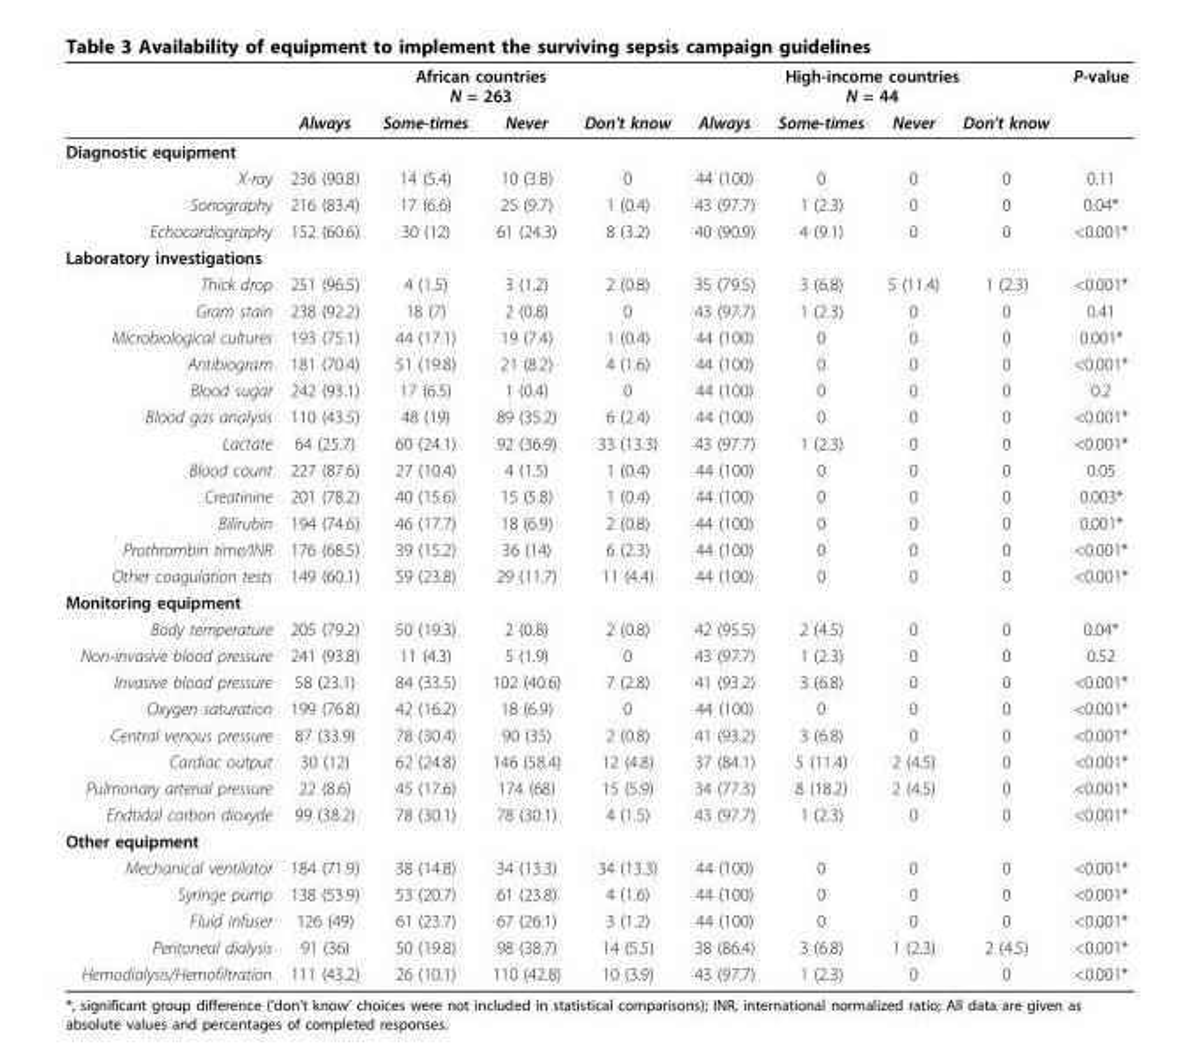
<table><thead><tr><td rowspan="2"></td><td colspan="4">African countries N = 263</td><td colspan="4">High-income countries N = 44</td><td rowspan="2">P-value</td></tr><tr><td>Always</td><td>Some-times</td><td>Never</td><td>Don’t know</td><td>Always</td><td>Some-times</td><td>Never</td><td>Don’t know</td></tr></thead><tbody><tr><td colspan="10">Diagnostic equipment</td></tr><tr><td>X-ray</td><td>236 (90.8)</td><td>14 (5.4)</td><td>10 (3.8)</td><td>0</td><td>44 (100)</td><td>0</td><td>0</td><td>0</td><td>0.11</td></tr><tr><td>Sonography</td><td>216 (83.4)</td><td>17 (6.6)</td><td>25 (9.7)</td><td>1 (0.4)</td><td>43 (97.7)</td><td>1 (2.3)</td><td>0</td><td>0</td><td>0.04*</td></tr><tr><td>Echocardiography</td><td>152 (60.6)</td><td>30 (12)</td><td>61 (24.3)</td><td>8 (3.2)</td><td>40 (90.9)</td><td>4 (9.1)</td><td>0</td><td>0</td><td>&lt;0.001*</td></tr><tr><td colspan="10">Laboratory investigations</td></tr><tr><td>Thick drop</td><td>251 (96.5)</td><td>4 (1.5)</td><td>3 (1.2)</td><td>2 (0.8)</td><td>35 (79.5)</td><td>3 (6.8)</td><td>5 (11.4)</td><td>1 (2.3)</td><td>&lt;0.001*</td></tr><tr><td>Gram stain</td><td>238 (92.2)</td><td>18 (7)</td><td>2 (0.8)</td><td>0</td><td>43 (97.7)</td><td>1 (2.3)</td><td>0</td><td>0</td><td>0.41</td></tr><tr><td>Microbiological cultures</td><td>193 (75.1)</td><td>44 (17.1)</td><td>19 (7.4)</td><td>1 (0.4)</td><td>44 (100)</td><td>0</td><td>0</td><td>0</td><td>0.001*</td></tr><tr><td>Antibiogram</td><td>181 (70.4)</td><td>51 (19.8)</td><td>21 (8.2)</td><td>4 (1.6)</td><td>44 (100)</td><td>0</td><td>0</td><td>0</td><td>&lt;0.001*</td></tr><tr><td>Blood sugar</td><td>242 (93.1)</td><td>17 (6.5)</td><td>1 (0.4)</td><td>0</td><td>44 (100)</td><td>0</td><td>0</td><td>0</td><td>0.2</td></tr><tr><td>Blood gas analysis</td><td>110 (43.5)</td><td>48 (19)</td><td>89 (35.2)</td><td>6 (2.4)</td><td>44 (100)</td><td>0</td><td>0</td><td>0</td><td>&lt;0.001*</td></tr><tr><td>Lactate</td><td>64 (25.7)</td><td>60 (24.1)</td><td>92 (36.9)</td><td>33 (13.3)</td><td>43 (97.7)</td><td>1 (2.3)</td><td>0</td><td>0</td><td>&lt;0.001*</td></tr><tr><td>Blood count</td><td>227 (87.6)</td><td>27 (10.4)</td><td>4 (1.5)</td><td>1 (0.4)</td><td>44 (100)</td><td>0</td><td>0</td><td>0</td><td>0.05</td></tr><tr><td>Creatinine</td><td>201 (78.2)</td><td>40 (15.6)</td><td>15 (5.8)</td><td>1 (0.4)</td><td>44 (100)</td><td>0</td><td>0</td><td>0</td><td>0.003*</td></tr><tr><td>Bilirubin</td><td>194 (74.6)</td><td>46 (17.7)</td><td>18 (6.9)</td><td>2 (0.8)</td><td>44 (100)</td><td>0</td><td>0</td><td>0</td><td>0.001*</td></tr><tr><td>Prothrombin time/INR</td><td>176 (68.5)</td><td>39 (15.2)</td><td>36 (14)</td><td>6 (2.3)</td><td>44 (100)</td><td>0</td><td>0</td><td>0</td><td>&lt;0.001*</td></tr><tr><td>Other coagulation tests</td><td>149 (60.1)</td><td>59 (23.8)</td><td>29 (11.7)</td><td>11 (4.4)</td><td>44 (100)</td><td>0</td><td>0</td><td>0</td><td>&lt;0.001*</td></tr><tr><td colspan="10">Monitoring equipment</td></tr><tr><td>Body temperature</td><td>205 (79.2)</td><td>50 (19.3)</td><td>2 (0.8)</td><td>2 (0.8)</td><td>42 (95.5)</td><td>2 (4.5)</td><td>0</td><td>0</td><td>0.04*</td></tr><tr><td>Non-invasive blood pressure</td><td>241 (93.8)</td><td>11 (4.3)</td><td>5 (1.9)</td><td>0</td><td>43 (97.7)</td><td>1 (2.3)</td><td>0</td><td>0</td><td>0.52</td></tr><tr><td>Invasive blood pressure</td><td>58 (23.1)</td><td>84 (33.5)</td><td>102 (40.6)</td><td>7 (2.8)</td><td>41 (93.2)</td><td>3 (6.8)</td><td>0</td><td>0</td><td>&lt;0.001*</td></tr><tr><td>Oxygen saturation</td><td>199 (76.8)</td><td>42 (16.2)</td><td>18 (6.9)</td><td>0</td><td>44 (100)</td><td>0</td><td>0</td><td>0</td><td>&lt;0.001*</td></tr><tr><td>Central venous pressure</td><td>87 (33.9)</td><td>78 (30.4)</td><td>90 (35)</td><td>2 (0.8)</td><td>41 (93.2)</td><td>3 (6.8)</td><td>0</td><td>0</td><td>&lt;0.001*</td></tr><tr><td>Cardiac output</td><td>30 (12)</td><td>62 (24.8)</td><td>146 (58.4)</td><td>12 (4.8)</td><td>37 (84.1)</td><td>5 (11.4)</td><td>2 (4.5)</td><td>0</td><td>&lt;0.001*</td></tr><tr><td>Pulmonary arterial pressure</td><td>22 (8.6)</td><td>45 (17.6)</td><td>174 (68)</td><td>15 (5.9)</td><td>34 (77.3)</td><td>8 (18.2)</td><td>2 (4.5)</td><td>0</td><td>&lt;0.001*</td></tr><tr><td>Endtidal carbon dioxyde</td><td>99 (38.2)</td><td>78 (30.1)</td><td>78 (30.1)</td><td>4 (1.5)</td><td>43 (97.7)</td><td>1 (2.3)</td><td>0</td><td>0</td><td>&lt;0.001*</td></tr><tr><td colspan="10">Other equipment</td></tr><tr><td>Mechanical ventilator</td><td>184 (71.9)</td><td>38 (14.8)</td><td>34 (13.3)</td><td>34 (13.3)</td><td>44 (100)</td><td>0</td><td>0</td><td>0</td><td>&lt;0.001*</td></tr><tr><td>Syringe pump</td><td>138 (53.9)</td><td>53 (20.7)</td><td>61 (23.8)</td><td>4 (1.6)</td><td>44 (100)</td><td>0</td><td>0</td><td>0</td><td>&lt;0.001*</td></tr><tr><td>Fluid infuser</td><td>126 (49)</td><td>61 (23.7)</td><td>67 (26.1)</td><td>3 (1.2)</td><td>44 (100)</td><td>0</td><td>0</td><td>0</td><td>&lt;0.001*</td></tr><tr><td>Peritoneal dialysis</td><td>91 (36)</td><td>50 (19.8)</td><td>98 (38.7)</td><td>14 (5.5)</td><td>38 (86.4)</td><td>3 (6.8)</td><td>1 (2.3)</td><td>2 (4.5)</td><td>&lt;0.001*</td></tr><tr><td>Hemodialysis/Hemofiltration</td><td>111 (43.2)</td><td>26 (10.1)</td><td>110 (42.8)</td><td>10 (3.9)</td><td>43 (97.7)</td><td>1 (2.3)</td><td>0</td><td>0</td><td>&lt;0.001*</td></tr></tbody></table>